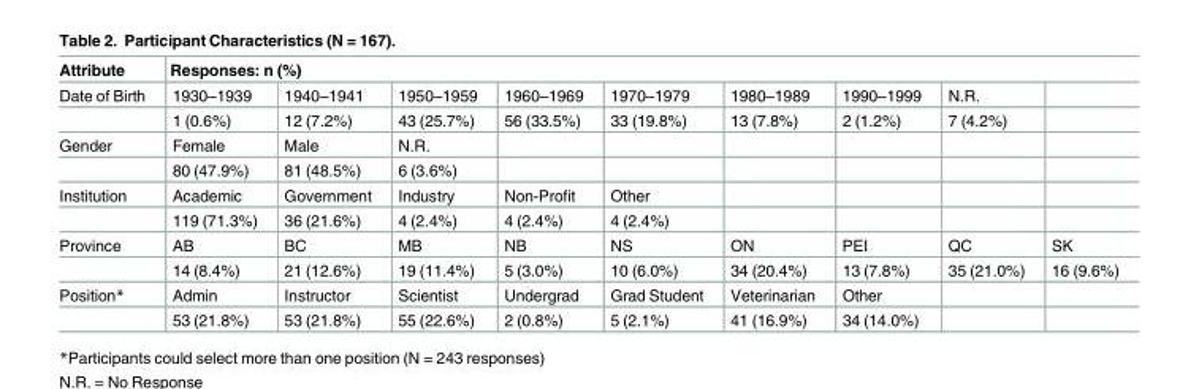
<table><thead><tr><td rowspan="2">Attribute Date of Birth</td><td colspan="9">Responses: n (%)</td></tr><tr><td>1930–1939</td><td>1940–1941</td><td>1950–1959</td><td>1960–1969</td><td>1970–1979</td><td>1980–1989</td><td>1990–1999</td><td>N.R.</td><td></td></tr></thead><tbody><tr><td></td><td>1 (0.6%)</td><td>12 (7.2%)</td><td>43 (25.7%)</td><td>56 (33.5%)</td><td>33 (19.8%)</td><td>13 (7.8%)</td><td>2 (1.2%)</td><td>7 (4.2%)</td><td></td></tr><tr><td rowspan="2">Gender</td><td>Female</td><td>Male</td><td>N.R.</td><td></td><td></td><td></td><td></td><td></td><td></td></tr><tr><td>80 (47.9%)</td><td>81 (48.5%)</td><td>6 (3.6%)</td><td></td><td></td><td></td><td></td><td></td><td></td></tr><tr><td rowspan="2">Institution</td><td>Academic</td><td>Government</td><td>Industry</td><td>Non-Profit</td><td>Other</td><td></td><td></td><td></td><td></td></tr><tr><td>119 (71.3%)</td><td>36 (21.6%)</td><td>4 (2.4%)</td><td>4 (2.4%)</td><td>4 (2.4%)</td><td></td><td></td><td></td><td></td></tr><tr><td rowspan="2">Province</td><td>AB</td><td>BC</td><td>MB</td><td>NB</td><td>NS</td><td>ON</td><td>PEI</td><td>QC</td><td>SK</td></tr><tr><td>14 (8.4%)</td><td>21 (12.6%)</td><td>19 (11.4%)</td><td>5 (3.0%)</td><td>10 (6.0%)</td><td>34 (20.4%)</td><td>13 (7.8%)</td><td>35 (21.0%)</td><td>16 (9.6%)</td></tr><tr><td rowspan="2">Position*</td><td>Admin</td><td>Instructor</td><td>Scientist</td><td>Undergrad</td><td>Grad Student</td><td>Veterinarian</td><td>Other</td><td></td><td></td></tr><tr><td>53 (21.8%)</td><td>53 (21.8%)</td><td>55 (22.6%)</td><td>2 (0.8%)</td><td>5 (2.1%)</td><td>41 (16.9%)</td><td>34 (14.0%)</td><td></td><td></td></tr></tbody></table>